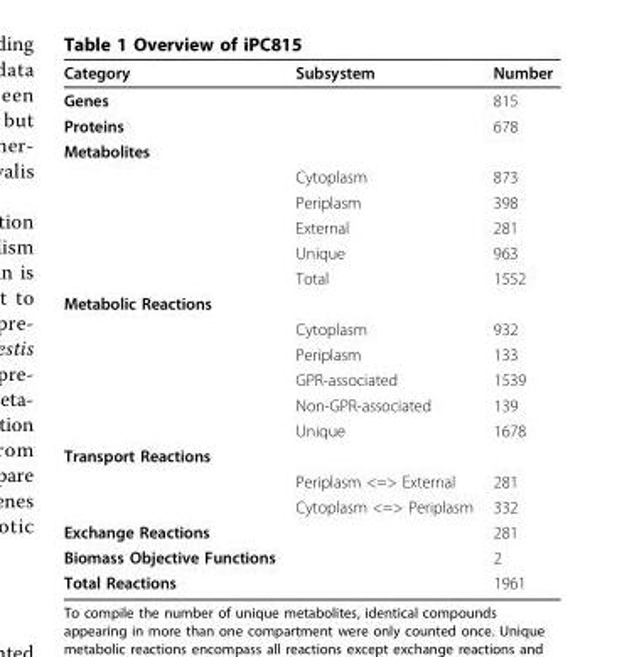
<table><thead><tr><td>Category</td><td>Subsystem</td><td>Number</td></tr></thead><tbody><tr><td>Genes</td><td></td><td>815</td></tr><tr><td>Proteins</td><td></td><td>678</td></tr><tr><td colspan="3">Metabolites</td></tr><tr><td></td><td>Cytoplasm</td><td>873</td></tr><tr><td></td><td>Periplasm</td><td>398</td></tr><tr><td></td><td>External</td><td>281</td></tr><tr><td></td><td>Unique</td><td>963</td></tr><tr><td></td><td>Total</td><td>1552</td></tr><tr><td colspan="3">Metabolic Reactions</td></tr><tr><td></td><td>Cytoplasm</td><td>932</td></tr><tr><td></td><td>Periplasm</td><td>133</td></tr><tr><td></td><td>GPR-associated</td><td>1539</td></tr><tr><td></td><td>Non-GPR-associated</td><td>139</td></tr><tr><td></td><td>Unique</td><td>1678</td></tr><tr><td colspan="3">Transport Reactions</td></tr><tr><td></td><td>Periplasm &lt;=&gt; External</td><td>281</td></tr><tr><td></td><td>Cytoplasm &lt;=&gt; Periplasm</td><td>332</td></tr><tr><td>Exchange Reactions</td><td></td><td>281</td></tr><tr><td>Biomass Objective Functions</td><td></td><td>2</td></tr><tr><td>Total Reactions</td><td></td><td>1961</td></tr></tbody></table>